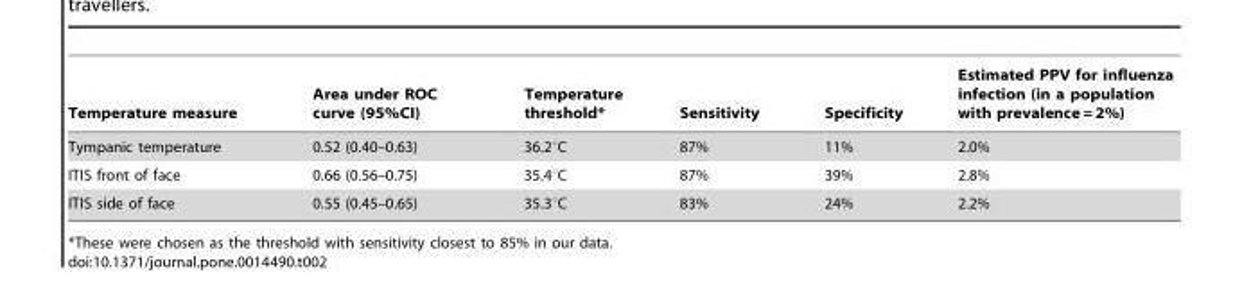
<table><thead><tr><td>Temperature measure</td><td>Area under ROC curve (95%CI)</td><td>Temperature threshold*</td><td>Sensitivity</td><td>Specificity</td><td>Estimated PPV for influenza infection (in a population with prevalence = 2%)</td></tr></thead><tbody><tr><td>Tympanic temperature</td><td>0.52 (0.40–0.63)</td><td>36.2°C</td><td>87%</td><td>11%</td><td>2.0%</td></tr><tr><td>ITIS front of face</td><td>0.66 (0.56–0.75)</td><td>35.4°C</td><td>87%</td><td>39%</td><td>2.8%</td></tr><tr><td>ITIS side of face</td><td>0.55 (0.45–0.65)</td><td>35.3°C</td><td>83%</td><td>24%</td><td>2.2%</td></tr></tbody></table>